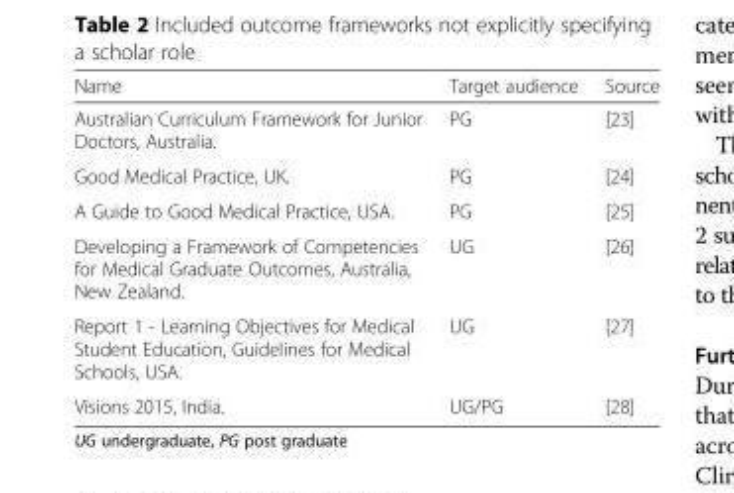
<table><thead><tr><td>Name</td><td>Target audience</td><td>Source</td></tr></thead><tbody><tr><td>Australian Curriculum Framework for Junior Doctors, Australia.</td><td>PG</td><td>[23]</td></tr><tr><td>Good Medical Practice, UK.</td><td>PG</td><td>[24]</td></tr><tr><td>A Guide to Good Medical Practice, USA.</td><td>PG</td><td>[25]</td></tr><tr><td>Developing a Framework of Competencies for Medical Graduate Outcomes, Australia, New Zealand.</td><td>UG</td><td>[26]</td></tr><tr><td>Report 1 - Learning Objectives for Medical Student Education, Guidelines for Medical Schools, USA.</td><td>UG</td><td>[27]</td></tr><tr><td>Visions 2015, India.</td><td>UG/PG</td><td>[28]</td></tr></tbody></table>